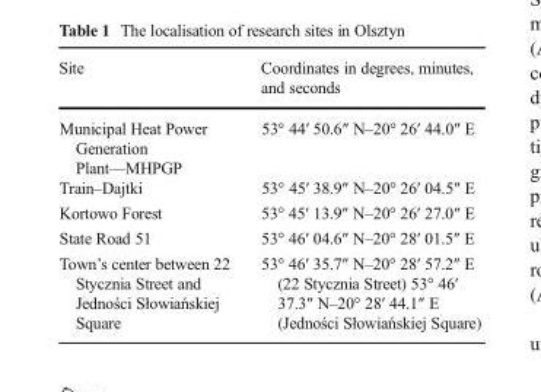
<table><thead><tr><td>Site</td><td>Coordinates in degrees, minutes, and seconds</td></tr></thead><tbody><tr><td>Municipal Heat Power Generation Plant—MHPGP</td><td>53° 44′ 50.6″ N–20° 26′ 44.0″ E</td></tr><tr><td>Train–Dajtki</td><td>53° 45′ 38.9″ N–20° 26′ 04.5″ E</td></tr><tr><td>Kortowo Forest</td><td>53° 45′ 13.9″ N–20° 26′ 27.0″ E</td></tr><tr><td>State Road 51</td><td>53° 46′ 04.6″ N–20° 28′ 01.5″ E</td></tr><tr><td>Town’s center between 22 Stycznia Street and Jedności Słowiańskiej Square</td><td>53° 46′ 35.7″ N–20° 28′ 57.2″ E (22 Stycznia Street) 53° 46′ 37.3″ N–20° 28′ 44.1″ E (Jedności Słowiańskiej Square)</td></tr></tbody></table>